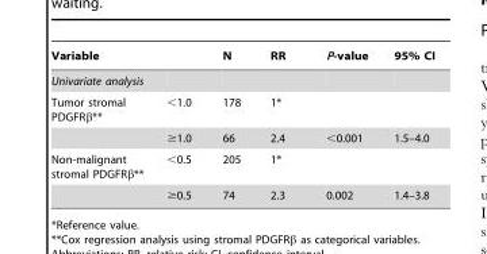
<table><thead><tr><td>Variable</td><td></td><td>N</td><td>RR</td><td>P-value</td><td>95% CI</td></tr></thead><tbody><tr><td colspan="6">Univariate analysis</td></tr><tr><td rowspan="2">Tumor stromal PDGFRβ**</td><td>&lt;1.0</td><td>178</td><td>1*</td><td></td><td></td></tr><tr><td>≥1.0</td><td>66</td><td>2.4</td><td>&lt;0.001</td><td>1.5–4.0</td></tr><tr><td rowspan="2">Non-malignant stromal PDGFRβ**</td><td>&lt;0.5</td><td>205</td><td>1*</td><td></td><td></td></tr><tr><td>≥0.5</td><td>74</td><td>2.3</td><td>0.002</td><td>1.4–3.8</td></tr></tbody></table>